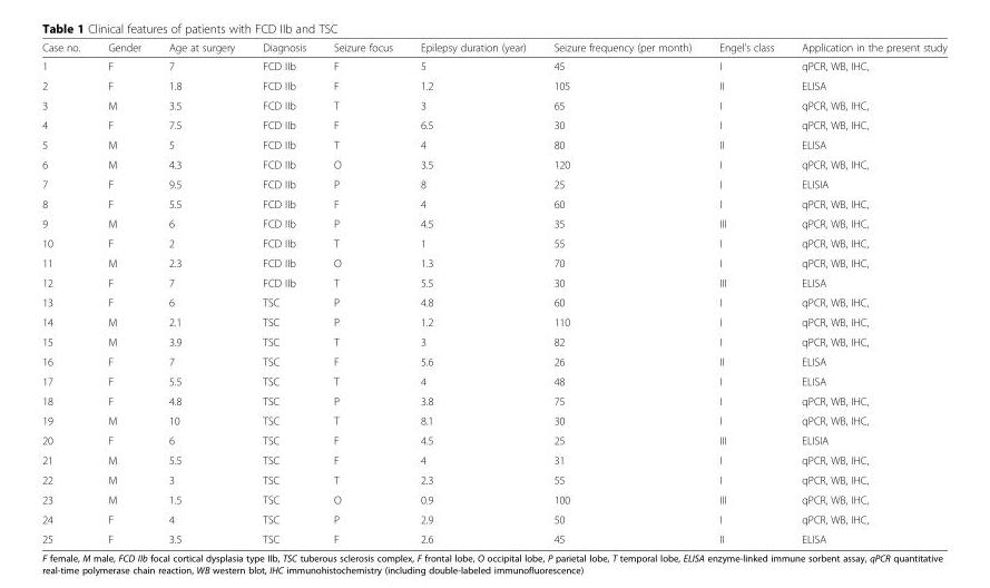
<table><thead><tr><td>Case no.</td><td>Gender</td><td>Age at surgery</td><td>Diagnosis</td><td>Seizure focus</td><td>Epilepsy duration (year)</td><td>Seizure frequency (per month)</td><td>Engel’s class</td><td>Application in the present study</td></tr></thead><tbody><tr><td>1</td><td>F</td><td>7</td><td>FCD IIb</td><td>F</td><td>5</td><td>45</td><td>I</td><td>qPCR, WB, IHC,</td></tr><tr><td>2</td><td>F</td><td>1.8</td><td>FCD IIb</td><td>F</td><td>1.2</td><td>105</td><td>II</td><td>ELISA</td></tr><tr><td>3</td><td>M</td><td>3.5</td><td>FCD IIb</td><td>T</td><td>3</td><td>65</td><td>I</td><td>qPCR, WB, IHC,</td></tr><tr><td>4</td><td>F</td><td>7.5</td><td>FCD IIb</td><td>F</td><td>6.5</td><td>30</td><td>I</td><td>qPCR, WB, IHC,</td></tr><tr><td>5</td><td>M</td><td>5</td><td>FCD IIb</td><td>T</td><td>4</td><td>80</td><td>II</td><td>ELISA</td></tr><tr><td>6</td><td>M</td><td>4.3</td><td>FCD IIb</td><td>O</td><td>3.5</td><td>120</td><td>I</td><td>qPCR, WB, IHC,</td></tr><tr><td>7</td><td>F</td><td>9.5</td><td>FCD IIb</td><td>P</td><td>8</td><td>25</td><td>I</td><td>ELISIA</td></tr><tr><td>8</td><td>F</td><td>5.5</td><td>FCD IIb</td><td>F</td><td>4</td><td>60</td><td>I</td><td>qPCR, WB, IHC,</td></tr><tr><td>9</td><td>M</td><td>6</td><td>FCD IIb</td><td>P</td><td>4.5</td><td>35</td><td>III</td><td>qPCR, WB, IHC,</td></tr><tr><td>10</td><td>F</td><td>2</td><td>FCD IIb</td><td>T</td><td>1</td><td>55</td><td>I</td><td>qPCR, WB, IHC,</td></tr><tr><td>11</td><td>M</td><td>2.3</td><td>FCD IIb</td><td>O</td><td>1.3</td><td>70</td><td>I</td><td>qPCR, WB, IHC,</td></tr><tr><td>12</td><td>F</td><td>7</td><td>FCD IIb</td><td>T</td><td>5.5</td><td>30</td><td>III</td><td>ELISA</td></tr><tr><td>13</td><td>F</td><td>6</td><td>TSC</td><td>P</td><td>4.8</td><td>60</td><td>I</td><td>qPCR, WB, IHC,</td></tr><tr><td>14</td><td>M</td><td>2.1</td><td>TSC</td><td>P</td><td>1.2</td><td>110</td><td>I</td><td>qPCR, WB, IHC,</td></tr><tr><td>15</td><td>M</td><td>3.9</td><td>TSC</td><td>T</td><td>3</td><td>82</td><td>I</td><td>qPCR, WB, IHC,</td></tr><tr><td>16</td><td>F</td><td>7</td><td>TSC</td><td>F</td><td>5.6</td><td>26</td><td>II</td><td>ELISA</td></tr><tr><td>17</td><td>F</td><td>5.5</td><td>TSC</td><td>T</td><td>4</td><td>48</td><td>I</td><td>ELISA</td></tr><tr><td>18</td><td>F</td><td>4.8</td><td>TSC</td><td>P</td><td>3.8</td><td>75</td><td>I</td><td>qPCR, WB, IHC,</td></tr><tr><td>19</td><td>M</td><td>10</td><td>TSC</td><td>T</td><td>8.1</td><td>30</td><td>I</td><td>qPCR, WB, IHC,</td></tr><tr><td>20</td><td>F</td><td>6</td><td>TSC</td><td>F</td><td>4.5</td><td>25</td><td>III</td><td>ELISIA</td></tr><tr><td>21</td><td>M</td><td>5.5</td><td>TSC</td><td>F</td><td>4</td><td>31</td><td>I</td><td>qPCR, WB, IHC,</td></tr><tr><td>22</td><td>M</td><td>3</td><td>TSC</td><td>T</td><td>2.3</td><td>55</td><td>I</td><td>qPCR, WB, IHC,</td></tr><tr><td>23</td><td>M</td><td>1.5</td><td>TSC</td><td>O</td><td>0.9</td><td>100</td><td>III</td><td>qPCR, WB, IHC,</td></tr><tr><td>24</td><td>F</td><td>4</td><td>TSC</td><td>P</td><td>2.9</td><td>50</td><td>I</td><td>qPCR, WB, IHC,</td></tr><tr><td>25</td><td>F</td><td>3.5</td><td>TSC</td><td>F</td><td>2.6</td><td>45</td><td>II</td><td>ELISA</td></tr></tbody></table>